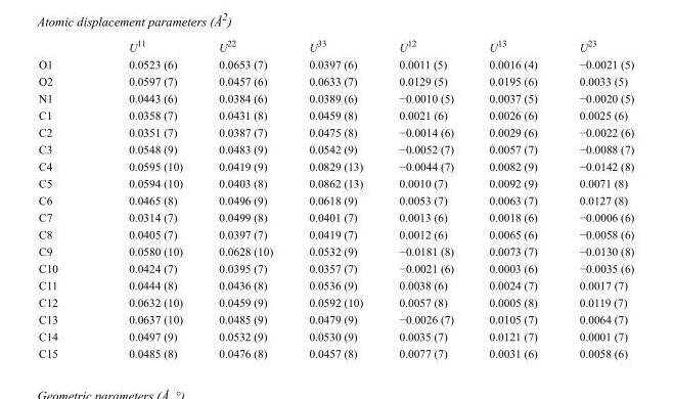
<table><thead><tr><td></td><td>U<sup>11</sup></td><td>U<sup>22</sup></td><td>U<sup>33</sup></td><td>U<sup>12</sup></td><td>U<sup>13</sup></td><td>U<sup>23</sup></td></tr></thead><tbody><tr><td>O1</td><td>0.0523 (6)</td><td>0.0653 (7)</td><td>0.0397 (6)</td><td>0.0011 (5)</td><td>0.0016 (4)</td><td>−0.0021 (5)</td></tr><tr><td>O2</td><td>0.0597 (7)</td><td>0.0457 (6)</td><td>0.0633 (7)</td><td>0.0129 (5)</td><td>0.0195 (6)</td><td>0.0033 (5)</td></tr><tr><td>N1</td><td>0.0443 (6)</td><td>0.0384 (6)</td><td>0.0389 (6)</td><td>−0.0010 (5)</td><td>0.0037 (5)</td><td>−0.0020 (5)</td></tr><tr><td>C1</td><td>0.0358 (7)</td><td>0.0431 (8)</td><td>0.0459 (8)</td><td>0.0021 (6)</td><td>0.0026 (6)</td><td>0.0025 (6)</td></tr><tr><td>C2</td><td>0.0351 (7)</td><td>0.0387 (7)</td><td>0.0475 (8)</td><td>−0.0014 (6)</td><td>0.0029 (6)</td><td>−0.0022 (6)</td></tr><tr><td>C3</td><td>0.0548 (9)</td><td>0.0483 (9)</td><td>0.0542 (9)</td><td>−0.0052 (7)</td><td>0.0057 (7)</td><td>−0.0088 (7)</td></tr><tr><td>C4</td><td>0.0595 (10)</td><td>0.0419 (9)</td><td>0.0829 (13)</td><td>−0.0044 (7)</td><td>0.0082 (9)</td><td>−0.0142 (8)</td></tr><tr><td>C5</td><td>0.0594 (10)</td><td>0.0403 (8)</td><td>0.0862 (13)</td><td>0.0010 (7)</td><td>0.0092 (9)</td><td>0.0071 (8)</td></tr><tr><td>C6</td><td>0.0465 (8)</td><td>0.0496 (9)</td><td>0.0618 (9)</td><td>0.0053 (7)</td><td>0.0063 (7)</td><td>0.0127 (8)</td></tr><tr><td>C7</td><td>0.0314 (7)</td><td>0.0499 (8)</td><td>0.0401 (7)</td><td>0.0013 (6)</td><td>0.0018 (6)</td><td>−0.0006 (6)</td></tr><tr><td>C8</td><td>0.0405 (7)</td><td>0.0397 (7)</td><td>0.0419 (7)</td><td>0.0012 (6)</td><td>0.0065 (6)</td><td>−0.0058 (6)</td></tr><tr><td>C9</td><td>0.0580 (10)</td><td>0.0628 (10)</td><td>0.0532 (9)</td><td>−0.0181 (8)</td><td>0.0073 (7)</td><td>−0.0130 (8)</td></tr><tr><td>C10</td><td>0.0424 (7)</td><td>0.0395 (7)</td><td>0.0357 (7)</td><td>−0.0021 (6)</td><td>0.0003 (6)</td><td>−0.0035 (6)</td></tr><tr><td>C11</td><td>0.0444 (8)</td><td>0.0436 (8)</td><td>0.0536 (9)</td><td>0.0038 (6)</td><td>0.0024 (7)</td><td>0.0017 (7)</td></tr><tr><td>C12</td><td>0.0632 (10)</td><td>0.0459 (9)</td><td>0.0592 (10)</td><td>0.0057 (8)</td><td>0.0005 (8)</td><td>0.0119 (7)</td></tr><tr><td>C13</td><td>0.0637 (10)</td><td>0.0485 (9)</td><td>0.0479 (9)</td><td>−0.0026 (7)</td><td>0.0105 (7)</td><td>0.0064 (7)</td></tr><tr><td>C14</td><td>0.0497 (9)</td><td>0.0532 (9)</td><td>0.0530 (9)</td><td>0.0035 (7)</td><td>0.0121 (7)</td><td>0.0001 (7)</td></tr><tr><td>C15</td><td>0.0485 (8)</td><td>0.0476 (8)</td><td>0.0457 (8)</td><td>0.0077 (7)</td><td>0.0031 (6)</td><td>0.0058 (6)</td></tr></tbody></table>